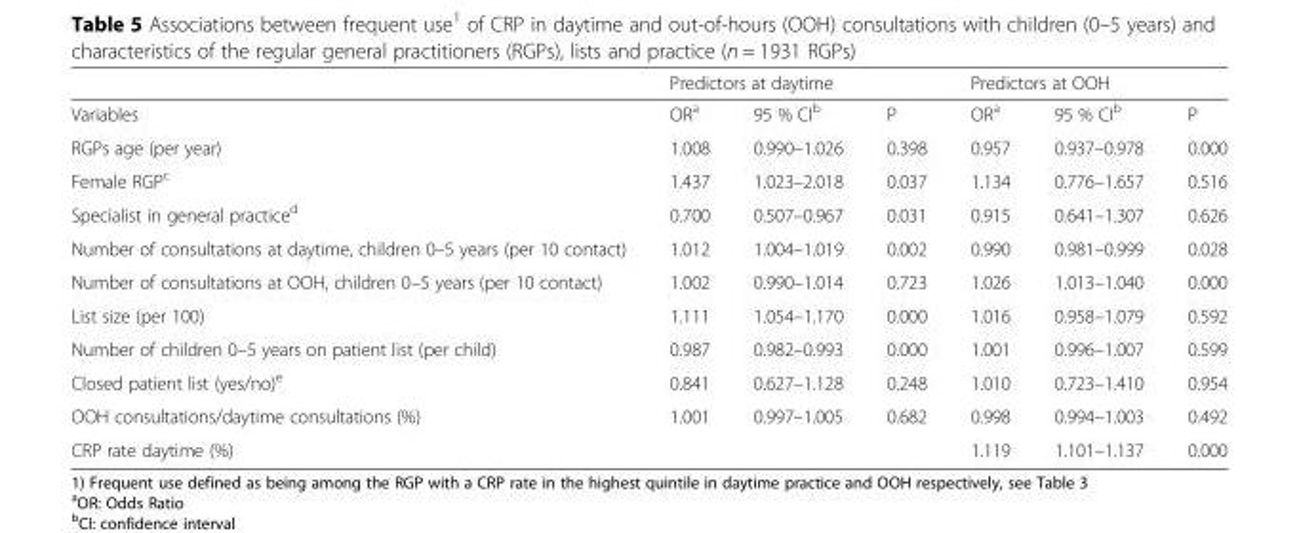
<table><thead><tr><td rowspan="2">Variables</td><td colspan="3">Predictors at daytime</td><td colspan="3">Predictors at OOH</td></tr><tr><td>OR<sup>a</sup></td><td>95 % CI<sup>b</sup></td><td>P</td><td>OR<sup>a</sup></td><td>95 % CI<sup>b</sup></td><td>P</td></tr></thead><tbody><tr><td>RGPs age (per year)</td><td>1.008</td><td>0.990–1.026</td><td>0.398</td><td>0.957</td><td>0.937–0.978</td><td>0.000</td></tr><tr><td>Female RGP<sup>c</sup></td><td>1.437</td><td>1.023–2.018</td><td>0.037</td><td>1.134</td><td>0.776–1.657</td><td>0.516</td></tr><tr><td>Specialist in general practice<sup>d</sup></td><td>0.700</td><td>0.507–0.967</td><td>0.031</td><td>0.915</td><td>0.641–1.307</td><td>0.626</td></tr><tr><td>Number of consultations at daytime, children 0–5 years (per 10 contact)</td><td>1.012</td><td>1.004–1.019</td><td>0.002</td><td>0.990</td><td>0.981–0.999</td><td>0.028</td></tr><tr><td>Number of consultations at OOH, children 0–5 years (per 10 contact)</td><td>1.002</td><td>0.990–1.014</td><td>0.723</td><td>1.026</td><td>1.013–1.040</td><td>0.000</td></tr><tr><td>List size (per 100)</td><td>1.111</td><td>1.054–1.170</td><td>0.000</td><td>1.016</td><td>0.958–1.079</td><td>0.592</td></tr><tr><td>Number of children 0–5 years on patient list (per child)</td><td>0.987</td><td>0.982–0.993</td><td>0.000</td><td>1.001</td><td>0.996–1.007</td><td>0.599</td></tr><tr><td>Closed patient list (yes/no)<sup>e</sup></td><td>0.841</td><td>0.627–1.128</td><td>0.248</td><td>1.010</td><td>0.723–1.410</td><td>0.954</td></tr><tr><td>OOH consultations/daytime consultations (%)</td><td>1.001</td><td>0.997–1.005</td><td>0.682</td><td>0.998</td><td>0.994–1.003</td><td>0.492</td></tr><tr><td>CRP rate daytime (%)</td><td></td><td></td><td></td><td>1.119</td><td>1.101–1.137</td><td>0.000</td></tr></tbody></table>